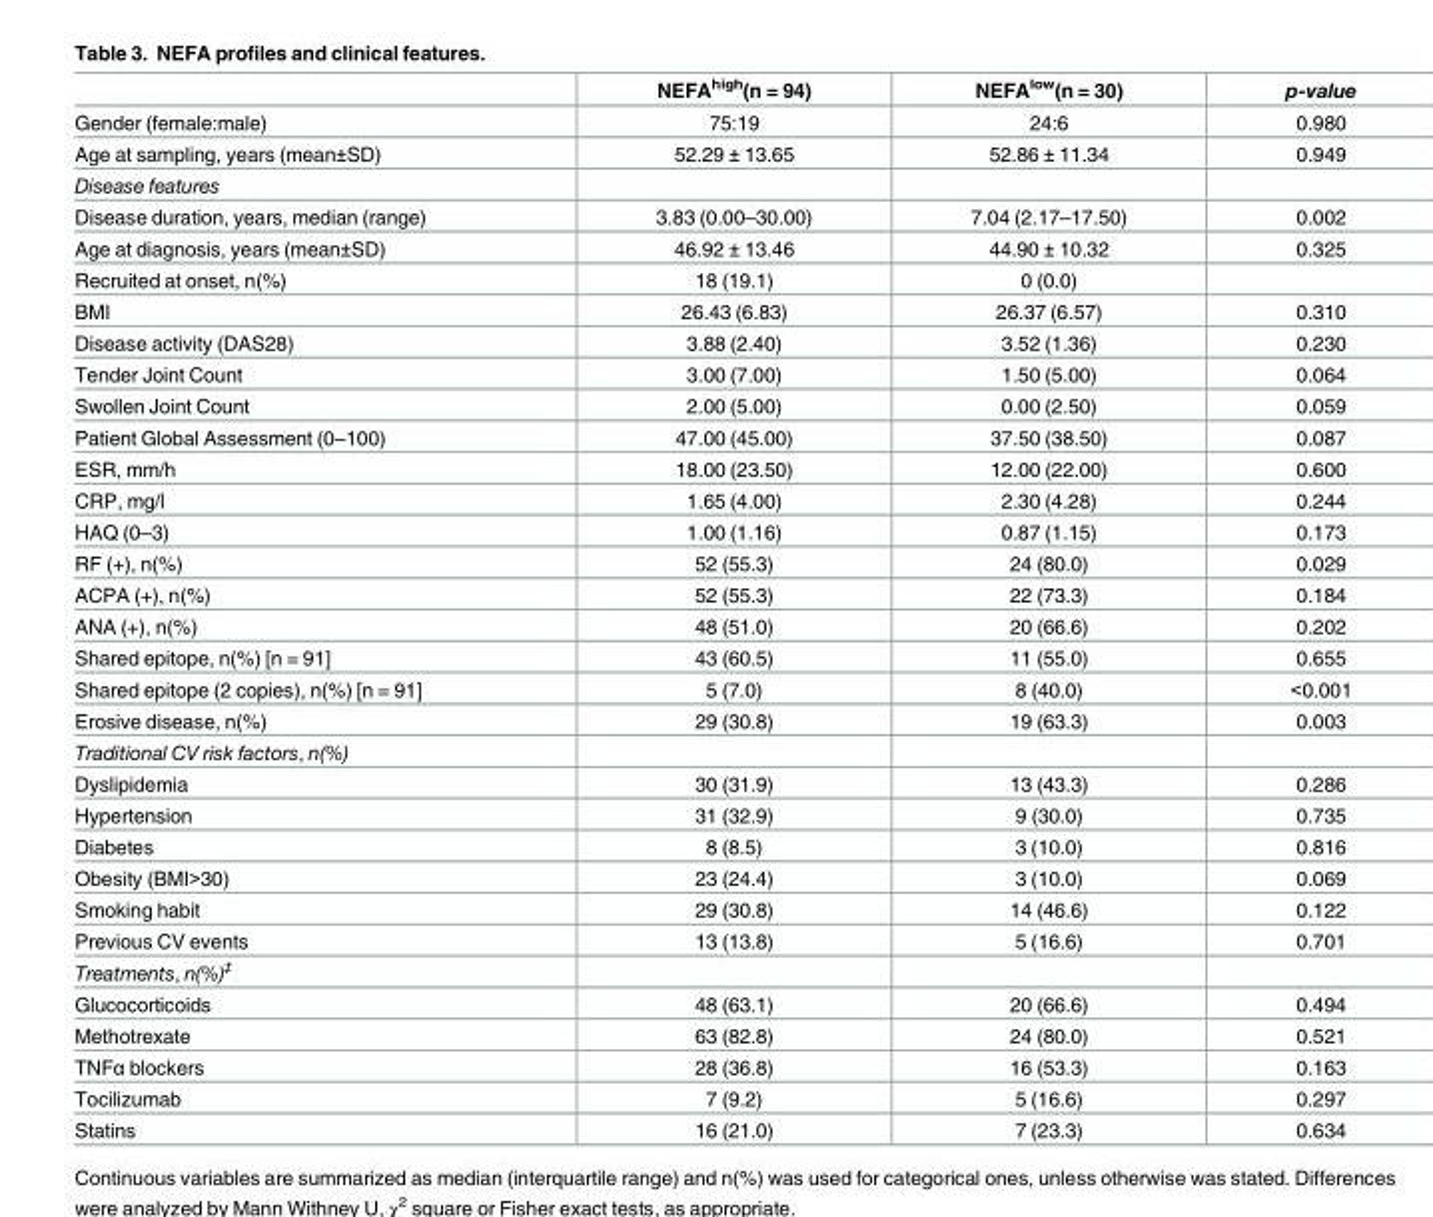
<table><thead><tr><td></td><td>NEFA<sup>high</sup>(n = 94)</td><td>NEFA<sup>low</sup>(n = 30)</td><td>p-value</td></tr></thead><tbody><tr><td>Gender (female:male)</td><td>75:19</td><td>24:6</td><td>0.980</td></tr><tr><td>Age at sampling, years (mean±SD)</td><td>52.29 ± 13.65</td><td>52.86 ± 11.34</td><td>0.949</td></tr><tr><td colspan="4">Disease features</td></tr><tr><td>Disease duration, years, median (range)</td><td>3.83 (0.00–30.00)</td><td>7.04 (2.17–17.50)</td><td>0.002</td></tr><tr><td>Age at diagnosis, years (mean±SD)</td><td>46.92 ± 13.46</td><td>44.90 ± 10.32</td><td>0.325</td></tr><tr><td>Recruited at onset, n(%)</td><td>18 (19.1)</td><td>0 (0.0)</td><td></td></tr><tr><td>BMI</td><td>26.43 (6.83)</td><td>26.37 (6.57)</td><td>0.310</td></tr><tr><td>Disease activity (DAS28)</td><td>3.88 (2.40)</td><td>3.52 (1.36)</td><td>0.230</td></tr><tr><td>Tender Joint Count</td><td>3.00 (7.00)</td><td>1.50 (5.00)</td><td>0.064</td></tr><tr><td>Swollen Joint Count</td><td>2.00 (5.00)</td><td>0.00 (2.50)</td><td>0.059</td></tr><tr><td>Patient Global Assessment (0–100)</td><td>47.00 (45.00)</td><td>37.50 (38.50)</td><td>0.087</td></tr><tr><td>ESR, mm/h</td><td>18.00 (23.50)</td><td>12.00 (22.00)</td><td>0.600</td></tr><tr><td>CRP, mg/l</td><td>1.65 (4.00)</td><td>2.30 (4.28)</td><td>0.244</td></tr><tr><td>HAQ (0–3)</td><td>1.00 (1.16)</td><td>0.87 (1.15)</td><td>0.173</td></tr><tr><td>RF (+), n(%)</td><td>52 (55.3)</td><td>24 (80.0)</td><td>0.029</td></tr><tr><td>ACPA (+), n(%)</td><td>52 (55.3)</td><td>22 (73.3)</td><td>0.184</td></tr><tr><td>ANA (+), n(%)</td><td>48 (51.0)</td><td>20 (66.6)</td><td>0.202</td></tr><tr><td>Shared epitope, n(%) [n = 91]</td><td>43 (60.5)</td><td>11 (55.0)</td><td>0.655</td></tr><tr><td>Shared epitope (2 copies), n(%) [n = 91]</td><td>5 (7.0)</td><td>8 (40.0)</td><td>&lt;0.001</td></tr><tr><td>Erosive disease, n(%)</td><td>29 (30.8)</td><td>19 (63.3)</td><td>0.003</td></tr><tr><td colspan="4">Traditional CV risk factors, n(%)</td></tr><tr><td>Dyslipidemia</td><td>30 (31.9)</td><td>13 (43.3)</td><td>0.286</td></tr><tr><td>Hypertension</td><td>31 (32.9)</td><td>9 (30.0)</td><td>0.735</td></tr><tr><td>Diabetes</td><td>8 (8.5)</td><td>3 (10.0)</td><td>0.816</td></tr><tr><td>Obesity (BMI&gt;30)</td><td>23 (24.4)</td><td>3 (10.0)</td><td>0.069</td></tr><tr><td>Smoking habit</td><td>29 (30.8)</td><td>14 (46.6)</td><td>0.122</td></tr><tr><td>Previous CV events</td><td>13 (13.8)</td><td>5 (16.6)</td><td>0.701</td></tr><tr><td colspan="4">Treatments, n(%)<sup>‡</sup></td></tr><tr><td>Glucocorticoids</td><td>48 (63.1)</td><td>20 (66.6)</td><td>0.494</td></tr><tr><td>Methotrexate</td><td>63 (82.8)</td><td>24 (80.0)</td><td>0.521</td></tr><tr><td>TNFα blockers</td><td>28 (36.8)</td><td>16 (53.3)</td><td>0.163</td></tr><tr><td>Tocilizumab</td><td>7 (9.2)</td><td>5 (16.6)</td><td>0.297</td></tr><tr><td>Statins</td><td>16 (21.0)</td><td>7 (23.3)</td><td>0.634</td></tr></tbody></table>